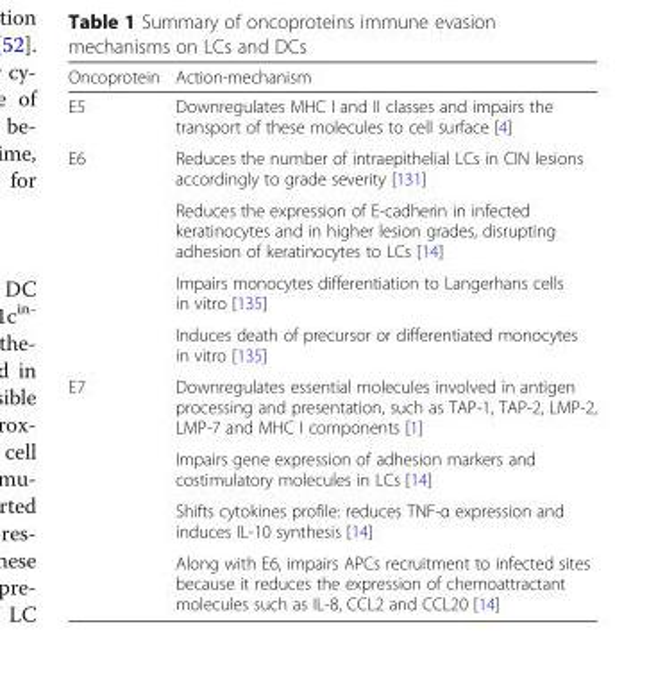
<table><thead><tr><td>Oncoprotein</td><td>Action-mechanism</td></tr></thead><tbody><tr><td>E5</td><td>Downregulates MHC I and II classes and impairs the transport of these molecules to cell surface [4]</td></tr><tr><td rowspan="4">E6</td><td>Reduces the number of intraepithelial LCs in CIN lesions accordingly to grade severity [131]</td></tr><tr><td>Reduces the expression of E-cadherin in infected keratinocytes and in higher lesion grades, disrupting adhesion of keratinocytes to LCs [14]</td></tr><tr><td>Impairs monocytes differentiation to Langerhans cells in vitro [135]</td></tr><tr><td>Induces death of precursor or differentiated monocytes in vitro [135]</td></tr><tr><td rowspan="4">E7</td><td>Downregulates essential molecules involved in antigen processing and presentation, such as TAP-1, TAP-2, LMP-2, LMP-7 and MHC I components [1]</td></tr><tr><td>Impairs gene expression of adhesion markers and costimulatory molecules in LCs [14]</td></tr><tr><td>Shifts cytokines profile: reduces TNF-α expression and induces IL-10 synthesis [14]</td></tr><tr><td>Along with E6, impairs APCs recruitment to infected sites because it reduces the expression of chemoattractant molecules such as IL-8, CCL2 and CCL20 [14]</td></tr></tbody></table>